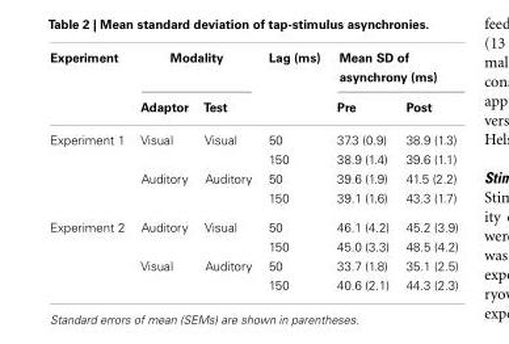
<table><thead><tr><td rowspan="2">Experiment</td><td colspan="2">Modality</td><td rowspan="2">Lag (ms)</td><td colspan="2">Mean SD of asynchrony (ms)</td></tr><tr><td>Adaptor</td><td>Test</td><td>Pre</td><td>Post</td></tr></thead><tbody><tr><td rowspan="4">Experiment 1</td><td>Visual</td><td>Visual</td><td>50</td><td>37.3 (0.9)</td><td>38.9 (1.3)</td></tr><tr><td></td><td></td><td>150</td><td>38.9 (1.4)</td><td>39.6 (1.1)</td></tr><tr><td>Auditory</td><td>Auditory</td><td>50</td><td>39.6 (1.9)</td><td>41.5 (2.2)</td></tr><tr><td></td><td></td><td>150</td><td>39.1 (1.6)</td><td>43.3 (1.7)</td></tr><tr><td rowspan="4">Experiment 2</td><td>Auditory</td><td>Visual</td><td>50</td><td>46.1 (4.2)</td><td>45.2 (3.9)</td></tr><tr><td></td><td></td><td>150</td><td>45.0 (3.3)</td><td>48.5 (4.2)</td></tr><tr><td>Visual</td><td>Auditory</td><td>50</td><td>33.7 (1.8)</td><td>35.1 (2.5)</td></tr><tr><td></td><td></td><td>150</td><td>40.6 (2.1)</td><td>44.3 (2.3)</td></tr></tbody></table>